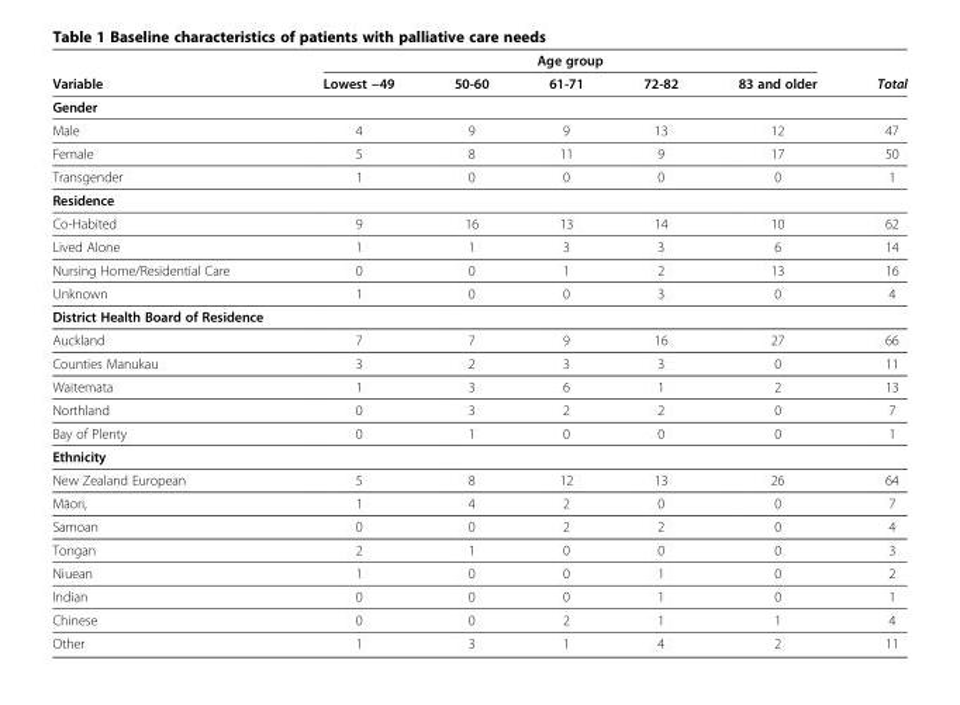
<table><thead><tr><td rowspan="2">Variable</td><td colspan="5">Age group</td><td rowspan="2">Total</td></tr><tr><td>Lowest −49</td><td>50-60</td><td>61-71</td><td>72-82</td><td>83 and older</td></tr></thead><tbody><tr><td colspan="7">Gender</td></tr><tr><td>Male</td><td>4</td><td>9</td><td>9</td><td>13</td><td>12</td><td>47</td></tr><tr><td>Female</td><td>5</td><td>8</td><td>11</td><td>9</td><td>17</td><td>50</td></tr><tr><td>Transgender</td><td>1</td><td>0</td><td>0</td><td>0</td><td>0</td><td>1</td></tr><tr><td colspan="7">Residence</td></tr><tr><td>Co-Habited</td><td>9</td><td>16</td><td>13</td><td>14</td><td>10</td><td>62</td></tr><tr><td>Lived Alone</td><td>1</td><td>1</td><td>3</td><td>3</td><td>6</td><td>14</td></tr><tr><td>Nursing Home/Residential Care</td><td>0</td><td>0</td><td>1</td><td>2</td><td>13</td><td>16</td></tr><tr><td>Unknown</td><td>1</td><td>0</td><td>0</td><td>3</td><td>0</td><td>4</td></tr><tr><td colspan="7">District Health Board of Residence</td></tr><tr><td>Auckland</td><td>7</td><td>7</td><td>9</td><td>16</td><td>27</td><td>66</td></tr><tr><td>Counties Manukau</td><td>3</td><td>2</td><td>3</td><td>3</td><td>0</td><td>11</td></tr><tr><td>Waitemata</td><td>1</td><td>3</td><td>6</td><td>1</td><td>2</td><td>13</td></tr><tr><td>Northland</td><td>0</td><td>3</td><td>2</td><td>2</td><td>0</td><td>7</td></tr><tr><td>Bay of Plenty</td><td>0</td><td>1</td><td>0</td><td>0</td><td>0</td><td>1</td></tr><tr><td colspan="7">Ethnicity</td></tr><tr><td>New Zealand European</td><td>5</td><td>8</td><td>12</td><td>13</td><td>26</td><td>64</td></tr><tr><td>Māori,</td><td>1</td><td>4</td><td>2</td><td>0</td><td>0</td><td>7</td></tr><tr><td>Samoan</td><td>0</td><td>0</td><td>2</td><td>2</td><td>0</td><td>4</td></tr><tr><td>Tongan</td><td>2</td><td>1</td><td>0</td><td>0</td><td>0</td><td>3</td></tr><tr><td>Niuean</td><td>1</td><td>0</td><td>0</td><td>1</td><td>0</td><td>2</td></tr><tr><td>Indian</td><td>0</td><td>0</td><td>0</td><td>1</td><td>0</td><td>1</td></tr><tr><td>Chinese</td><td>0</td><td>0</td><td>2</td><td>1</td><td>1</td><td>4</td></tr><tr><td>Other</td><td>1</td><td>3</td><td>1</td><td>4</td><td>2</td><td>11</td></tr></tbody></table>